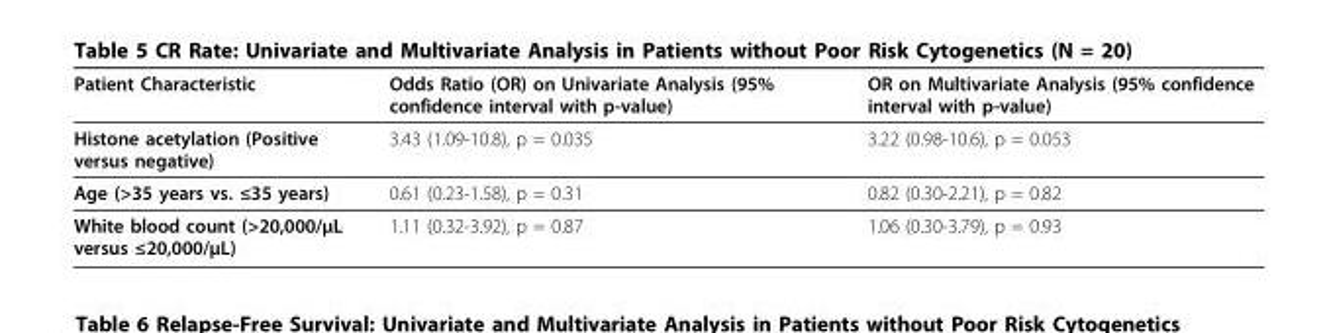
<table><thead><tr><td>Patient Characteristic</td><td>Odds Ratio (OR) on Univariate Analysis (95% confidence interval with p-value)</td><td>OR on Multivariate Analysis (95% confidence interval with p-value)</td></tr></thead><tbody><tr><td>Histone acetylation (Positive versus negative)</td><td>3.43 (1.09-10.8), p = 0.035</td><td>3.22 (0.98-10.6), p = 0.053</td></tr><tr><td>Age (&gt;35 years vs. ≤35 years)</td><td>0.61 (0.23-1.58), p = 0.31</td><td>0.82 (0.30-2.21), p = 0.82</td></tr><tr><td>White blood count (&gt;20,000/μL versus ≤20,000/μL)</td><td>1.11 (0.32-3.92), p = 0.87</td><td>1.06 (0.30-3.79), p = 0.93</td></tr></tbody></table>